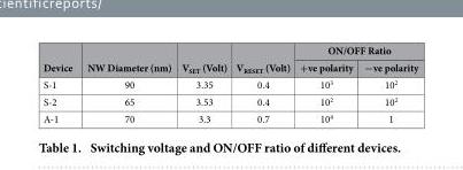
<table><thead><tr><td rowspan="2">Device</td><td rowspan="2">NW Diameter (nm)</td><td rowspan="2">V<sub>SET</sub> (Volt)</td><td rowspan="2">V<sub>RESET</sub> (Volt)</td><td colspan="2">ON/OFF Ratio</td></tr><tr><td>+ve polarity</td><td>−ve polarity</td></tr></thead><tbody><tr><td>S-1</td><td>90</td><td>3.35</td><td>0.4</td><td>10<sup>3</sup></td><td>10<sup>2</sup></td></tr><tr><td>S-2</td><td>65</td><td>3.53</td><td>0.4</td><td>10<sup>2</sup></td><td>10<sup>2</sup></td></tr><tr><td>A-1</td><td>70</td><td>3.3</td><td>0.7</td><td>10<sup>4</sup></td><td>1</td></tr></tbody></table>